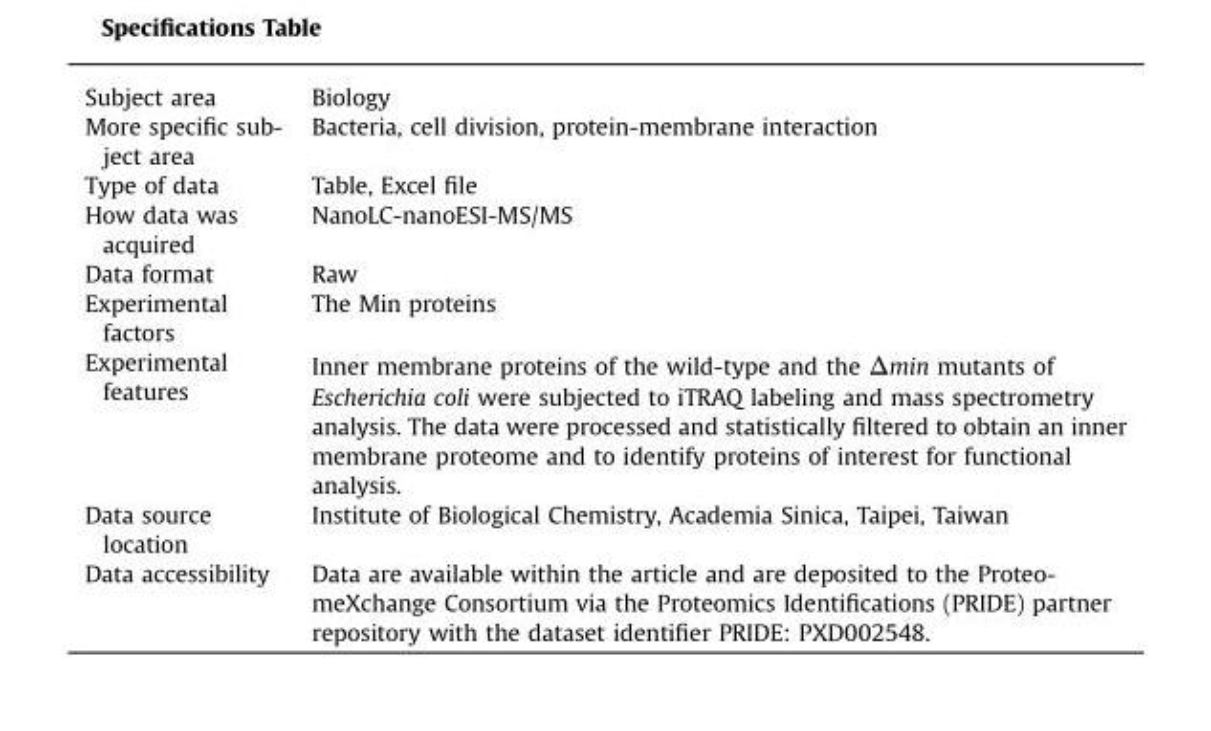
<table><tbody><tr><td>Subject area</td><td>Biology</td></tr><tr><td>More specific sub- ject area</td><td>Bacteria, cell division, protein-membrane interaction</td></tr><tr><td>Type of data</td><td>Table, Excel file</td></tr><tr><td>How data was acquired</td><td>NanoLC-nanoESI-MS/MS</td></tr><tr><td>Data format</td><td>Raw</td></tr><tr><td>Experimental factors</td><td>The Min proteins</td></tr><tr><td>Experimental features</td><td>Inner membrane proteins of the wild-type and the Δmin mutants of Escherichia coli were subjected to iTRAQ labeling and mass spectrometry analysis. The data were processed and statistically filtered to obtain an inner membrane proteome and to identify proteins of interest for functional analysis.</td></tr><tr><td>Data source location</td><td>Institute of Biological Chemistry, Academia Sinica, Taipei, Taiwan</td></tr><tr><td>Data accessibility</td><td>Data are available within the article and are deposited to the Proteo- meXchange Consortium via the Proteomics Identifications (PRIDE) partner repository with the dataset identifier PRIDE: PXD002548.</td></tr></tbody></table>